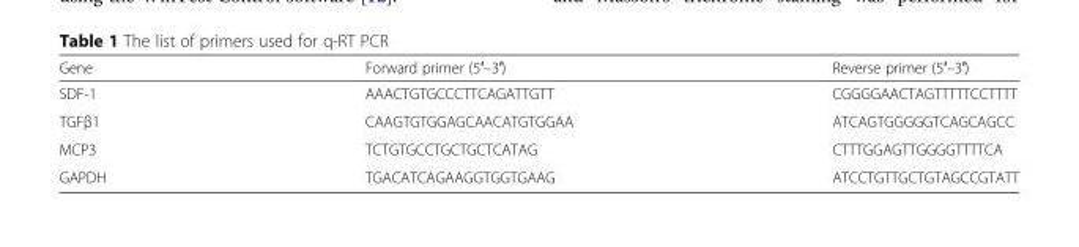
<table><thead><tr><td>Gene</td><td>Forward primer (5′–3′)</td><td>Reverse primer (5′–3′)</td></tr></thead><tbody><tr><td>SDF-1</td><td>AAACTGTGCCCTTCAGATTGTT</td><td>CGGGGAACTAGTTTTTCCTTTT</td></tr><tr><td>TGFβ1</td><td>CAAGTGTGGAGCAACATGTGGAA</td><td>ATCAGTGGGGGTCAGCAGCC</td></tr><tr><td>MCP3</td><td>TCTGTGCCTGCTGCTCATAG</td><td>CTTTGGAGTTGGGGTTTTCA</td></tr><tr><td>GAPDH</td><td>TGACATCAGAAGGTGGTGAAG</td><td>ATCCTGTTGCTGTAGCCGTATT</td></tr></tbody></table>